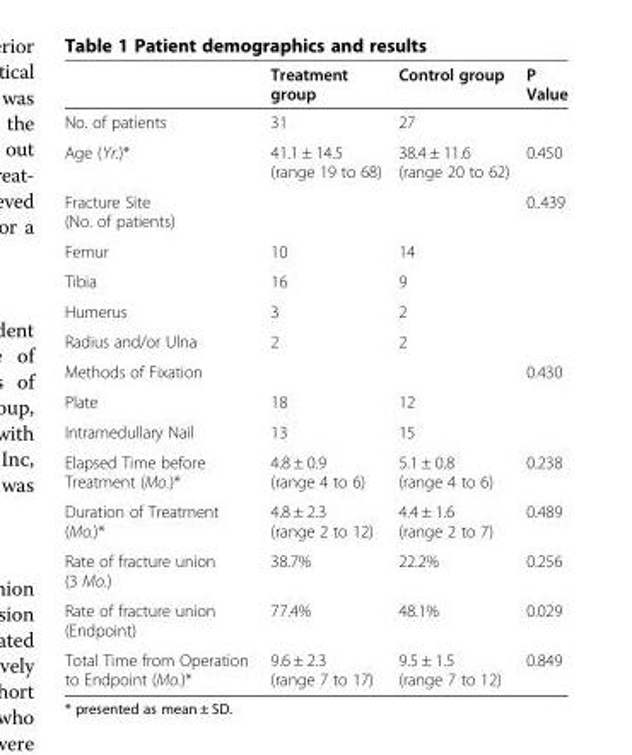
<table><thead><tr><td></td><td>Treatment group</td><td>Control group</td><td>P Value</td></tr></thead><tbody><tr><td>No. of patients</td><td>31</td><td>27</td><td></td></tr><tr><td>Age (Yr.)*</td><td>41.1 ± 14.5 (range 19 to 68)</td><td>38.4 ± 11.6 (range 20 to 62)</td><td>0.450</td></tr><tr><td>Fracture Site (No. of patients)</td><td></td><td></td><td>0..439</td></tr><tr><td>Femur</td><td>10</td><td>14</td><td></td></tr><tr><td>Tibia</td><td>16</td><td>9</td><td></td></tr><tr><td>Humerus</td><td>3</td><td>2</td><td></td></tr><tr><td>Radius and/or Ulna</td><td>2</td><td>2</td><td></td></tr><tr><td>Methods of Fixation</td><td></td><td></td><td>0.430</td></tr><tr><td>Plate</td><td>18</td><td>12</td><td></td></tr><tr><td>Intramedullary Nail</td><td>13</td><td>15</td><td></td></tr><tr><td>Elapsed Time before Treatment (Mo.)*</td><td>4.8 ± 0.9 (range 4 to 6)</td><td>5.1 ± 0.8 (range 4 to 6)</td><td>0.238</td></tr><tr><td>Duration of Treatment (Mo.)*</td><td>4.8 ± 2.3 (range 2 to 12)</td><td>4.4 ± 1.6 (range 2 to 7)</td><td>0.489</td></tr><tr><td>Rate of fracture union (3 Mo.)</td><td>38.7%</td><td>22.2%</td><td>0.256</td></tr><tr><td>Rate of fracture union (Endpoint)</td><td>77.4%</td><td>48.1%</td><td>0.029</td></tr><tr><td>Total Time from Operation to Endpoint (Mo.)*</td><td>9.6 ± 2.3 (range 7 to 17)</td><td>9.5 ± 1.5 (range 7 to 12)</td><td>0.849</td></tr></tbody></table>